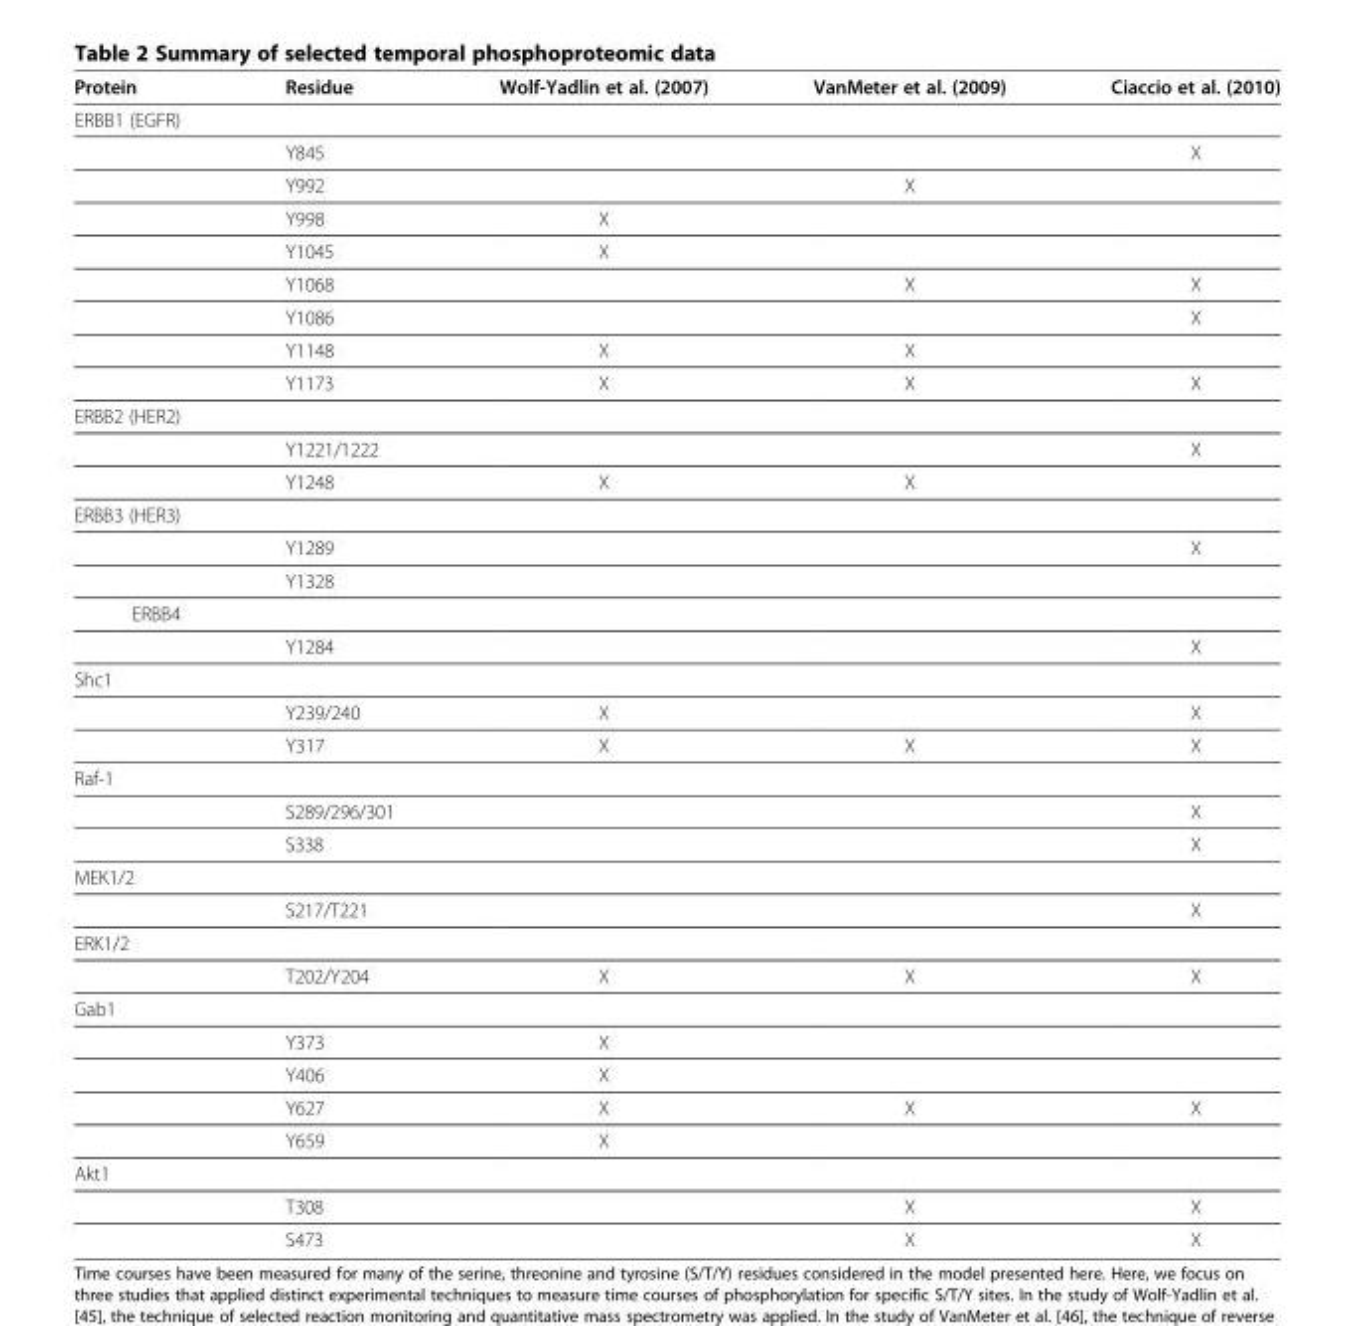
<table><thead><tr><td>Protein</td><td>Residue</td><td>Wolf-Yadlin et al. (2007)</td><td>VanMeter et al. (2009)</td><td>Ciaccio et al. (2010)</td></tr></thead><tbody><tr><td colspan="5">ERBB1 (EGFR)</td></tr><tr><td></td><td>Y845</td><td></td><td></td><td>X</td></tr><tr><td></td><td>Y992</td><td></td><td>X</td><td></td></tr><tr><td></td><td>Y998</td><td>X</td><td></td><td></td></tr><tr><td></td><td>Y1045</td><td>X</td><td></td><td></td></tr><tr><td></td><td>Y1068</td><td></td><td>X</td><td>X</td></tr><tr><td></td><td>Y1086</td><td></td><td></td><td>X</td></tr><tr><td></td><td>Y1148</td><td>X</td><td>X</td><td></td></tr><tr><td></td><td>Y1173</td><td>X</td><td>X</td><td>X</td></tr><tr><td colspan="5">ERBB2 (HER2)</td></tr><tr><td></td><td>Y1221/1222</td><td></td><td></td><td>X</td></tr><tr><td></td><td>Y1248</td><td>X</td><td>X</td><td></td></tr><tr><td colspan="5">ERBB3 (HER3)</td></tr><tr><td></td><td>Y1289</td><td></td><td></td><td>X</td></tr><tr><td></td><td>Y1328</td><td></td><td></td><td></td></tr><tr><td colspan="5">ERBB4</td></tr><tr><td></td><td>Y1284</td><td></td><td></td><td>X</td></tr><tr><td colspan="5">Shc1</td></tr><tr><td></td><td>Y239/240</td><td>X</td><td></td><td>X</td></tr><tr><td></td><td>Y317</td><td>X</td><td>X</td><td>X</td></tr><tr><td colspan="5">Raf-1</td></tr><tr><td></td><td>S289/296/301</td><td></td><td></td><td>X</td></tr><tr><td></td><td>S338</td><td></td><td></td><td>X</td></tr><tr><td colspan="5">MEK1/2</td></tr><tr><td></td><td>S217/T221</td><td></td><td></td><td>X</td></tr><tr><td colspan="5">ERK1/2</td></tr><tr><td></td><td>T202/Y204</td><td>X</td><td>X</td><td>X</td></tr><tr><td colspan="5">Gab1</td></tr><tr><td></td><td>Y373</td><td>X</td><td></td><td></td></tr><tr><td></td><td>Y406</td><td>X</td><td></td><td></td></tr><tr><td></td><td>Y627</td><td>X</td><td>X</td><td>X</td></tr><tr><td></td><td>Y659</td><td>X</td><td></td><td></td></tr><tr><td colspan="5">Akt1</td></tr><tr><td></td><td>T308</td><td></td><td>X</td><td>X</td></tr><tr><td></td><td>S473</td><td></td><td>X</td><td>X</td></tr></tbody></table>